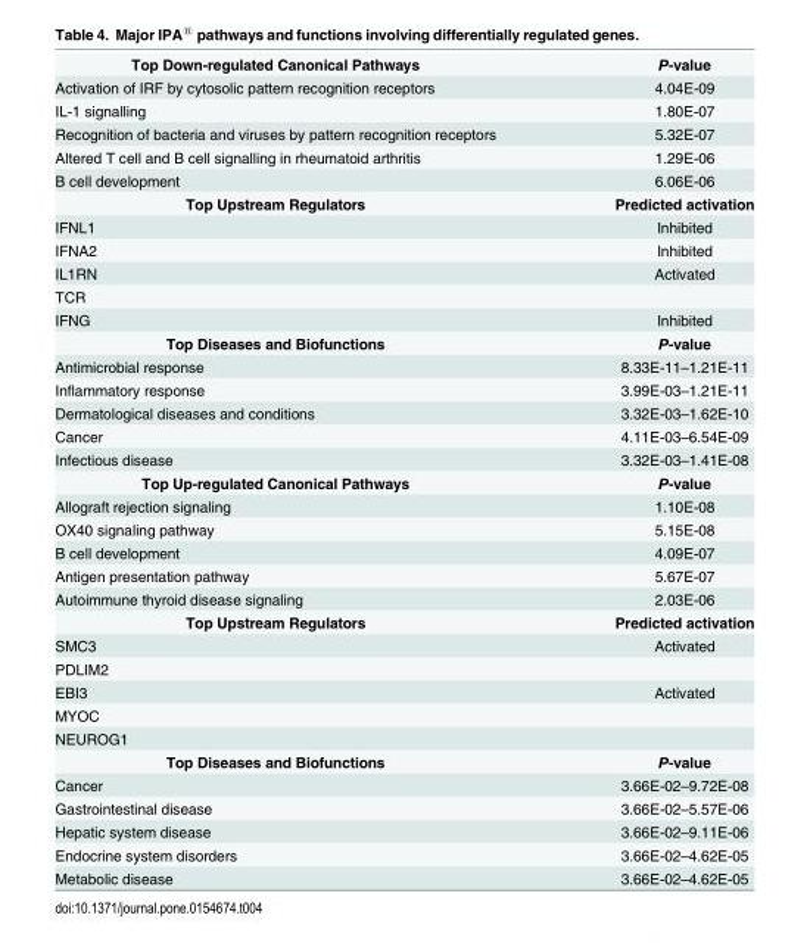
<table><tbody><tr><td>Top Down-regulated Canonical Pathways</td><td>P-value</td></tr><tr><td>Activation of IRF by cytosolic pattern recognition receptors</td><td>4.04E-09</td></tr><tr><td>IL-1 signalling</td><td>1.80E-07</td></tr><tr><td>Recognition of bacteria and viruses by pattern recognition receptors</td><td>5.32E-07</td></tr><tr><td>Altered T cell and B cell signalling in rheumatoid arthritis</td><td>1.29E-06</td></tr><tr><td>B cell development</td><td>6.06E-06</td></tr><tr><td>Top Upstream Regulators</td><td>Predicted activation</td></tr><tr><td>IFNL1</td><td>Inhibited</td></tr><tr><td>IFNA2</td><td>Inhibited</td></tr><tr><td>IL1RN</td><td>Activated</td></tr><tr><td colspan="2">TCR</td></tr><tr><td>IFNG</td><td>Inhibited</td></tr><tr><td>Top Diseases and Biofunctions</td><td>P-value</td></tr><tr><td>Antimicrobial response</td><td>8.33E-11–1.21E-11</td></tr><tr><td>Inflammatory response</td><td>3.99E-03–1.21E-11</td></tr><tr><td>Dermatological diseases and conditions</td><td>3.32E-03–1.62E-10</td></tr><tr><td>Cancer</td><td>4.11E-03–6.54E-09</td></tr><tr><td>Infectious disease</td><td>3.32E-03–1.41E-08</td></tr><tr><td>Top Up-regulated Canonical Pathways</td><td>P-value</td></tr><tr><td>Allograft rejection signaling</td><td>1.10E-08</td></tr><tr><td>OX40 signaling pathway</td><td>5.15E-08</td></tr><tr><td>B cell development</td><td>4.09E-07</td></tr><tr><td>Antigen presentation pathway</td><td>5.67E-07</td></tr><tr><td>Autoimmune thyroid disease signaling</td><td>2.03E-06</td></tr><tr><td>Top Upstream Regulators</td><td>Predicted activation</td></tr><tr><td>SMC3</td><td>Activated</td></tr><tr><td colspan="2">PDLIM2</td></tr><tr><td>EBI3</td><td>Activated</td></tr><tr><td colspan="2">MYOC</td></tr><tr><td colspan="2">NEUROG1</td></tr><tr><td>Top Diseases and Biofunctions</td><td>P-value</td></tr><tr><td>Cancer</td><td>3.66E-02–9.72E-08</td></tr><tr><td>Gastrointestinal disease</td><td>3.66E-02–5.57E-06</td></tr><tr><td>Hepatic system disease</td><td>3.66E-02–9.11E-06</td></tr><tr><td>Endocrine system disorders</td><td>3.66E-02–4.62E-05</td></tr><tr><td>Metabolic disease</td><td>3.66E-02–4.62E-05</td></tr></tbody></table>